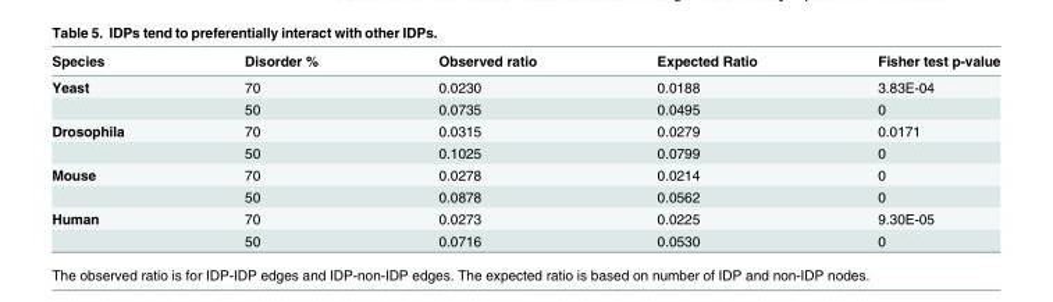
<table><thead><tr><td>Species</td><td>Disorder %</td><td>Observed ratio</td><td>Expected Ratio</td><td>Fisher test p-value</td></tr></thead><tbody><tr><td rowspan="2">Yeast</td><td>70</td><td>0.0230</td><td>0.0188</td><td>3.83E-04</td></tr><tr><td>50</td><td>0.0735</td><td>0.0495</td><td>0</td></tr><tr><td rowspan="2">Drosophila</td><td>70</td><td>0.0315</td><td>0.0279</td><td>0.0171</td></tr><tr><td>50</td><td>0.1025</td><td>0.0799</td><td>0</td></tr><tr><td rowspan="2">Mouse</td><td>70</td><td>0.0278</td><td>0.0214</td><td>0</td></tr><tr><td>50</td><td>0.0878</td><td>0.0562</td><td>0</td></tr><tr><td rowspan="2">Human</td><td>70</td><td>0.0273</td><td>0.0225</td><td>9.30E-05</td></tr><tr><td>50</td><td>0.0716</td><td>0.0530</td><td>0</td></tr></tbody></table>